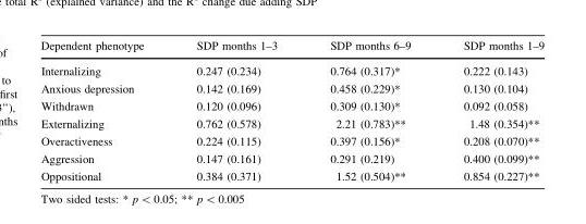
<table><thead><tr><td>Dependent phenotype</td><td>SDP months 1–3</td><td>SDP months 6–9</td><td>SDP months 1–9</td></tr></thead><tbody><tr><td>Internalizing</td><td>0.247 (0.234)</td><td>0.764 (0.317)*</td><td>0.222 (0.143)</td></tr><tr><td>Anxious depression</td><td>0.142 (0.169)</td><td>0.458 (0.229)*</td><td>0.130 (0.104)</td></tr><tr><td>Withdrawn</td><td>0.120 (0.096)</td><td>0.309 (0.130)*</td><td>0.092 (0.058)</td></tr><tr><td>Externalizing</td><td>0.762 (0.578)</td><td>2.21 (0.783)**</td><td>1.48 (0.354)**</td></tr><tr><td>Overactiveness</td><td>0.224 (0.115)</td><td>0.397 (0.156)*</td><td>0.208 (0.070)**</td></tr><tr><td>Aggression</td><td>0.147 (0.161)</td><td>0.291 (0.219)</td><td>0.400 (0.099)**</td></tr><tr><td>Oppositional</td><td>0.384 (0.371)</td><td>1.52 (0.504)**</td><td>0.854 (0.227)**</td></tr></tbody></table>